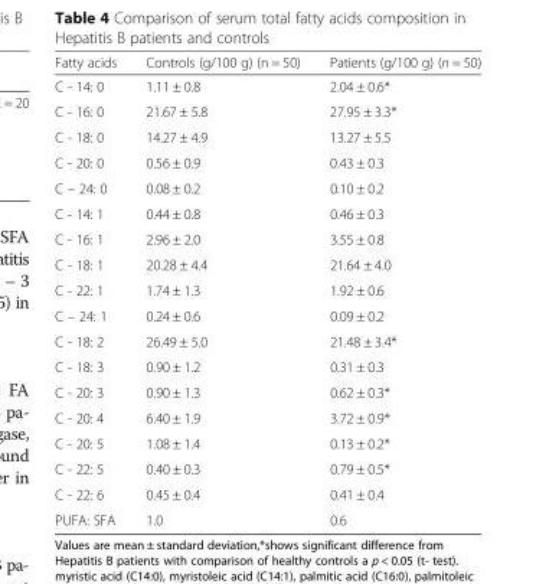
<table><thead><tr><td>Fatty acids</td><td>Controls (g/100 g) (n = 50)</td><td>Patients (g/100 g) (n = 50)</td></tr></thead><tbody><tr><td>C - 14: 0</td><td>1.11 ± 0.8</td><td>2.04 ± 0.6*</td></tr><tr><td>C - 16: 0</td><td>21.67 ± 5.8</td><td>27.95 ± 3.3*</td></tr><tr><td>C - 18: 0</td><td>14.27 ± 4.9</td><td>13.27 ± 5.5</td></tr><tr><td>C - 20: 0</td><td>0.56 ± 0.9</td><td>0.43 ± 0.3</td></tr><tr><td>C – 24: 0</td><td>0.08 ± 0.2</td><td>0.10 ± 0.2</td></tr><tr><td>C - 14: 1</td><td>0.44 ± 0.8</td><td>0.46 ± 0.3</td></tr><tr><td>C - 16: 1</td><td>2.96 ± 2.0</td><td>3.55 ± 0.8</td></tr><tr><td>C - 18: 1</td><td>20.28 ± 4.4</td><td>21.64 ± 4.0</td></tr><tr><td>C - 22: 1</td><td>1.74 ± 1.3</td><td>1.92 ± 0.6</td></tr><tr><td>C – 24: 1</td><td>0.24 ± 0.6</td><td>0.09 ± 0.2</td></tr><tr><td>C - 18: 2</td><td>26.49 ± 5.0</td><td>21.48 ± 3.4*</td></tr><tr><td>C - 18: 3</td><td>0.90 ± 1.2</td><td>0.31 ± 0.3</td></tr><tr><td>C - 20: 3</td><td>0.90 ± 1.3</td><td>0.62 ± 0.3*</td></tr><tr><td>C - 20: 4</td><td>6.40 ± 1.9</td><td>3.72 ± 0.9*</td></tr><tr><td>C - 20: 5</td><td>1.08 ± 1.4</td><td>0.13 ± 0.2*</td></tr><tr><td>C - 22: 5</td><td>0.40 ± 0.3</td><td>0.79 ± 0.5*</td></tr><tr><td>C - 22: 6</td><td>0.45 ± 0.4</td><td>0.41 ± 0.4</td></tr><tr><td>PUFA: SFA</td><td>1.0</td><td>0.6</td></tr></tbody></table>